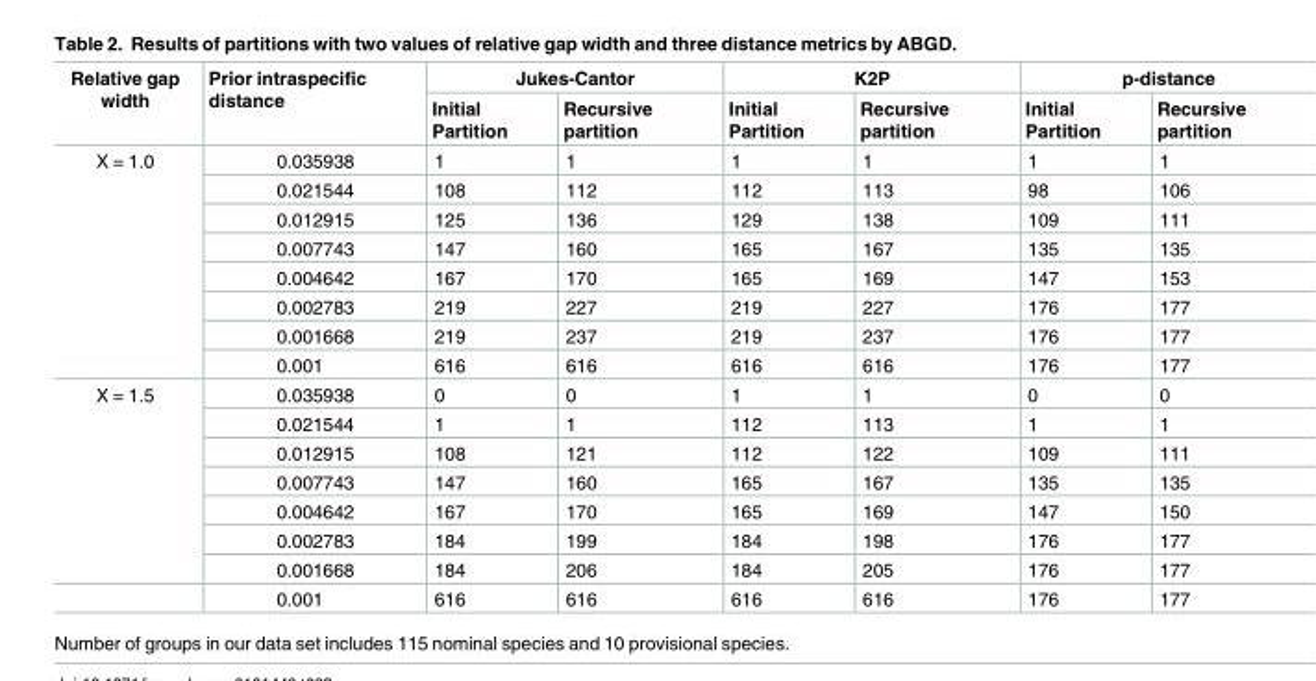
<table><thead><tr><td rowspan="2">Relative gap width</td><td rowspan="2">Prior intraspecific distance</td><td colspan="2">Jukes-Cantor</td><td colspan="2">K2P</td><td colspan="2">p-distance</td></tr><tr><td>Initial Partition</td><td>Recursive partition</td><td>Initial Partition</td><td>Recursive partition</td><td>Initial Partition</td><td>Recursive partition</td></tr></thead><tbody><tr><td rowspan="8">X = 1.0</td><td>0.035938</td><td>1</td><td>1</td><td>1</td><td>1</td><td>1</td><td>1</td></tr><tr><td>0.021544</td><td>108</td><td>112</td><td>112</td><td>113</td><td>98</td><td>106</td></tr><tr><td>0.012915</td><td>125</td><td>136</td><td>129</td><td>138</td><td>109</td><td>111</td></tr><tr><td>0.007743</td><td>147</td><td>160</td><td>165</td><td>167</td><td>135</td><td>135</td></tr><tr><td>0.004642</td><td>167</td><td>170</td><td>165</td><td>169</td><td>147</td><td>153</td></tr><tr><td>0.002783</td><td>219</td><td>227</td><td>219</td><td>227</td><td>176</td><td>177</td></tr><tr><td>0.001668</td><td>219</td><td>237</td><td>219</td><td>237</td><td>176</td><td>177</td></tr><tr><td>0.001</td><td>616</td><td>616</td><td>616</td><td>616</td><td>176</td><td>177</td></tr><tr><td rowspan="8">X = 1.5</td><td>0.035938</td><td>0</td><td>0</td><td>1</td><td>1</td><td>0</td><td>0</td></tr><tr><td>0.021544</td><td>1</td><td>1</td><td>112</td><td>113</td><td>1</td><td>1</td></tr><tr><td>0.012915</td><td>108</td><td>121</td><td>112</td><td>122</td><td>109</td><td>111</td></tr><tr><td>0.007743</td><td>147</td><td>160</td><td>165</td><td>167</td><td>135</td><td>135</td></tr><tr><td>0.004642</td><td>167</td><td>170</td><td>165</td><td>169</td><td>147</td><td>150</td></tr><tr><td>0.002783</td><td>184</td><td>199</td><td>184</td><td>198</td><td>176</td><td>177</td></tr><tr><td>0.001668</td><td>184</td><td>206</td><td>184</td><td>205</td><td>176</td><td>177</td></tr><tr><td>0.001</td><td>616</td><td>616</td><td>616</td><td>616</td><td>176</td><td>177</td></tr></tbody></table>